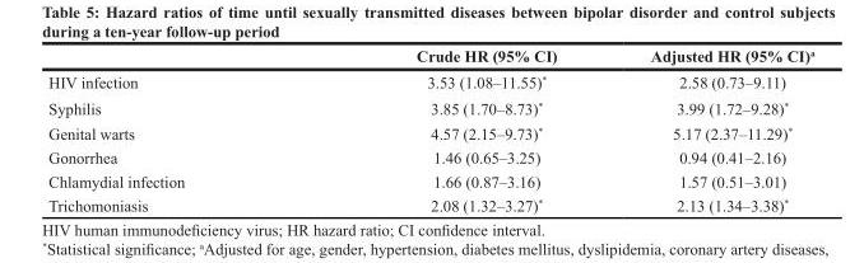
<table><thead><tr><td></td><td>Crude HR (95% CI)</td><td>Adjusted HR (95% CI)<sup>a</sup></td></tr></thead><tbody><tr><td>HIV infection</td><td>3.53 (1.08–11.55)*</td><td>2.58 (0.73–9.11)</td></tr><tr><td>Syphilis</td><td>3.85 (1.70–8.73)*</td><td>3.99 (1.72–9.28)*</td></tr><tr><td>Genital warts</td><td>4.57 (2.15–9.73)*</td><td>5.17 (2.37–11.29)*</td></tr><tr><td>Gonorrhea</td><td>1.46 (0.65–3.25)</td><td>0.94 (0.41–2.16)</td></tr><tr><td>Chlamydial infection</td><td>1.66 (0.87–3.16)</td><td>1.57 (0.51–3.01)</td></tr><tr><td>Trichomoniasis</td><td>2.08 (1.32–3.27)*</td><td>2.13 (1.34–3.38)*</td></tr></tbody></table>